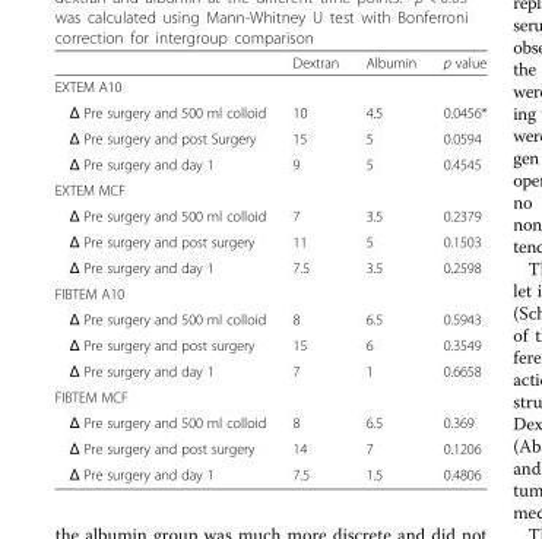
<table><thead><tr><td></td><td>Dextran</td><td>Albumin</td><td>p value</td></tr></thead><tbody><tr><td colspan="4">EXTEM A10</td></tr><tr><td>Δ Pre surgery and 500 ml colloid</td><td>10</td><td>4.5</td><td>0.0456*</td></tr><tr><td>Δ Pre surgery and post Surgery</td><td>15</td><td>5</td><td>0.0594</td></tr><tr><td>Δ Pre surgery and day 1</td><td>9</td><td>5</td><td>0.4545</td></tr><tr><td colspan="4">EXTEM MCF</td></tr><tr><td>Δ Pre surgery and 500 ml colloid</td><td>7</td><td>3.5</td><td>0.2379</td></tr><tr><td>Δ Pre surgery and post surgery</td><td>11</td><td>5</td><td>0.1503</td></tr><tr><td>Δ Pre surgery and day 1</td><td>7.5</td><td>3.5</td><td>0.2598</td></tr><tr><td colspan="4">FIBTEM A10</td></tr><tr><td>Δ Pre surgery and 500 ml colloid</td><td>8</td><td>6.5</td><td>0.5943</td></tr><tr><td>Δ Pre surgery and post surgery</td><td>15</td><td>6</td><td>0.3549</td></tr><tr><td>Δ Pre surgery and day 1</td><td>7</td><td>1</td><td>0.6658</td></tr><tr><td colspan="4">FIBTEM MCF</td></tr><tr><td>Δ Pre surgery and 500 ml colloid</td><td>8</td><td>6.5</td><td>0.369</td></tr><tr><td>Δ Pre surgery and post surgery</td><td>14</td><td>7</td><td>0.1206</td></tr><tr><td>Δ Pre surgery and day 1</td><td>7.5</td><td>1.5</td><td>0.4806</td></tr></tbody></table>